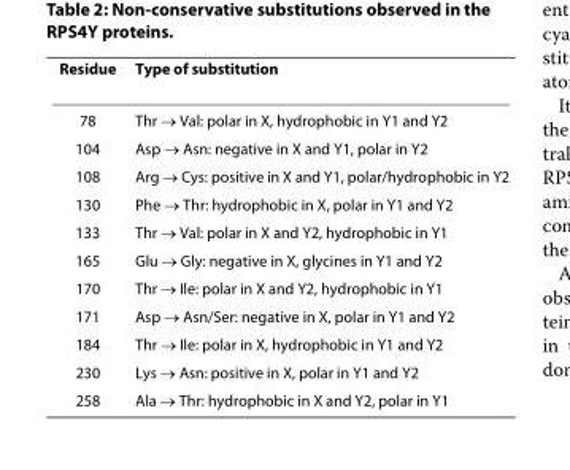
<table><thead><tr><td>Residue</td><td>Type of substitution</td></tr></thead><tbody><tr><td>78</td><td>Thr → Val: polar in X, hydrophobic in Y1 and Y2</td></tr><tr><td>104</td><td>Asp → Asn: negative in X and Y1, polar in Y2</td></tr><tr><td>108</td><td>Arg → Cys: positive in X and Y1, polar/hydrophobic in Y2</td></tr><tr><td>130</td><td>Phe → Thr: hydrophobic in X, polar in Y1 and Y2</td></tr><tr><td>133</td><td>Thr → Val: polar in X and Y2, hydrophobic in Y1</td></tr><tr><td>165</td><td>Glu → Gly: negative in X, glycines in Y1 and Y2</td></tr><tr><td>170</td><td>Thr → Ile: polar in X and Y2, hydrophobic in Y1</td></tr><tr><td>171</td><td>Asp → Asn/Ser: negative in X, polar in Y1 and Y2</td></tr><tr><td>184</td><td>Thr → Ile: polar in X, hydrophobic in Y1 and Y2</td></tr><tr><td>230</td><td>Lys → Asn: positive in X, polar in Y1 and Y2</td></tr><tr><td>258</td><td>Ala → Thr: hydrophobic in X and Y2, polar in Y1</td></tr></tbody></table>